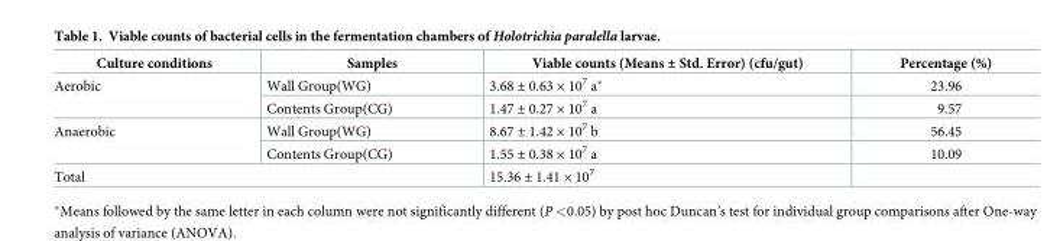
<table><thead><tr><td>Culture conditions</td><td>Samples</td><td>Viable counts (Means ± Std. Error) (cfu/gut)</td><td>Percentage (%)</td></tr></thead><tbody><tr><td rowspan="2">Aerobic</td><td>Wall Group(WG)</td><td>3.68 ± 0.63 × 10<sup>7</sup> a*</td><td>23.96</td></tr><tr><td>Contents Group(CG)</td><td>1.47 ± 0.27 × 10<sup>7</sup> a</td><td>9.57</td></tr><tr><td rowspan="2">Anaerobic</td><td>Wall Group(WG)</td><td>8.67 ± 1.42 × 10<sup>7</sup> b</td><td>56.45</td></tr><tr><td>Contents Group(CG)</td><td>1.55 ± 0.38 × 10<sup>7</sup> a</td><td>10.09</td></tr><tr><td colspan="2">Total</td><td>15.36 ± 1.41 × 10<sup>7</sup></td><td></td></tr></tbody></table>